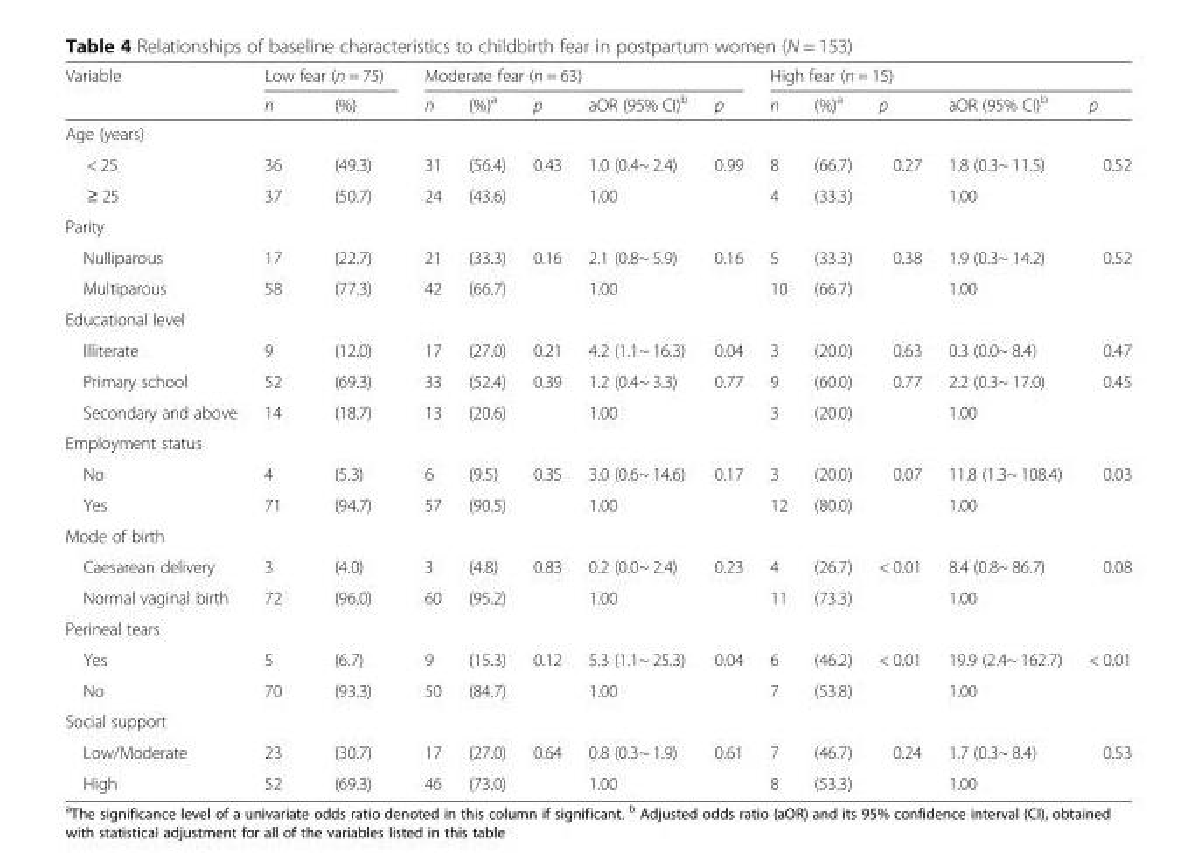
<table><thead><tr><td rowspan="2">Variable</td><td colspan="2">Low fear (n = 75)</td><td colspan="5">Moderate fear (n = 63)</td><td colspan="5">High fear (n = 15)</td></tr><tr><td>n</td><td>(%)</td><td>n</td><td>(%)<sup>a</sup></td><td>p</td><td>aOR (95% CI)<sup>b</sup></td><td>p</td><td>n</td><td>(%)<sup>a</sup></td><td>p</td><td>aOR (95% CI)<sup>b</sup></td><td>p</td></tr></thead><tbody><tr><td colspan="13">Age (years)</td></tr><tr><td>&lt; 25</td><td>36</td><td>(49.3)</td><td>31</td><td>(56.4)</td><td>0.43</td><td>1.0 (0.4~ 2.4)</td><td>0.99</td><td>8</td><td>(66.7)</td><td>0.27</td><td>1.8 (0.3~ 11.5)</td><td>0.52</td></tr><tr><td>≥ 25</td><td>37</td><td>(50.7)</td><td>24</td><td>(43.6)</td><td></td><td>1.00</td><td></td><td>4</td><td>(33.3)</td><td></td><td>1.00</td><td></td></tr><tr><td colspan="13">Parity</td></tr><tr><td>Nulliparous</td><td>17</td><td>(22.7)</td><td>21</td><td>(33.3)</td><td>0.16</td><td>2.1 (0.8~ 5.9)</td><td>0.16</td><td>5</td><td>(33.3)</td><td>0.38</td><td>1.9 (0.3~ 14.2)</td><td>0.52</td></tr><tr><td>Multiparous</td><td>58</td><td>(77.3)</td><td>42</td><td>(66.7)</td><td></td><td>1.00</td><td></td><td>10</td><td>(66.7)</td><td></td><td>1.00</td><td></td></tr><tr><td colspan="13">Educational level</td></tr><tr><td>Illiterate</td><td>9</td><td>(12.0)</td><td>17</td><td>(27.0)</td><td>0.21</td><td>4.2 (1.1~ 16.3)</td><td>0.04</td><td>3</td><td>(20.0)</td><td>0.63</td><td>0.3 (0.0~ 8.4)</td><td>0.47</td></tr><tr><td>Primary school</td><td>52</td><td>(69.3)</td><td>33</td><td>(52.4)</td><td>0.39</td><td>1.2 (0.4~ 3.3)</td><td>0.77</td><td>9</td><td>(60.0)</td><td>0.77</td><td>2.2 (0.3~ 17.0)</td><td>0.45</td></tr><tr><td>Secondary and above</td><td>14</td><td>(18.7)</td><td>13</td><td>(20.6)</td><td></td><td>1.00</td><td></td><td>3</td><td>(20.0)</td><td></td><td>1.00</td><td></td></tr><tr><td colspan="13">Employment status</td></tr><tr><td>No</td><td>4</td><td>(5.3)</td><td>6</td><td>(9.5)</td><td>0.35</td><td>3.0 (0.6~ 14.6)</td><td>0.17</td><td>3</td><td>(20.0)</td><td>0.07</td><td>11.8 (1.3~ 108.4)</td><td>0.03</td></tr><tr><td>Yes</td><td>71</td><td>(94.7)</td><td>57</td><td>(90.5)</td><td></td><td>1.00</td><td></td><td>12</td><td>(80.0)</td><td></td><td>1.00</td><td></td></tr><tr><td colspan="13">Mode of birth</td></tr><tr><td>Caesarean delivery</td><td>3</td><td>(4.0)</td><td>3</td><td>(4.8)</td><td>0.83</td><td>0.2 (0.0~ 2.4)</td><td>0.23</td><td>4</td><td>(26.7)</td><td>&lt; 0.01</td><td>8.4 (0.8~ 86.7)</td><td>0.08</td></tr><tr><td>Normal vaginal birth</td><td>72</td><td>(96.0)</td><td>60</td><td>(95.2)</td><td></td><td>1.00</td><td></td><td>11</td><td>(73.3)</td><td></td><td>1.00</td><td></td></tr><tr><td colspan="13">Perineal tears</td></tr><tr><td>Yes</td><td>5</td><td>(6.7)</td><td>9</td><td>(15.3)</td><td>0.12</td><td>5.3 (1.1~ 25.3)</td><td>0.04</td><td>6</td><td>(46.2)</td><td>&lt; 0.01</td><td>19.9 (2.4~ 162.7)</td><td>&lt; 0.01</td></tr><tr><td>No</td><td>70</td><td>(93.3)</td><td>50</td><td>(84.7)</td><td></td><td>1.00</td><td></td><td>7</td><td>(53.8)</td><td></td><td>1.00</td><td></td></tr><tr><td colspan="13">Social support</td></tr><tr><td>Low/Moderate</td><td>23</td><td>(30.7)</td><td>17</td><td>(27.0)</td><td>0.64</td><td>0.8 (0.3~ 1.9)</td><td>0.61</td><td>7</td><td>(46.7)</td><td>0.24</td><td>1.7 (0.3~ 8.4)</td><td>0.53</td></tr><tr><td>High</td><td>52</td><td>(69.3)</td><td>46</td><td>(73.0)</td><td></td><td>1.00</td><td></td><td>8</td><td>(53.3)</td><td></td><td>1.00</td><td></td></tr></tbody></table>